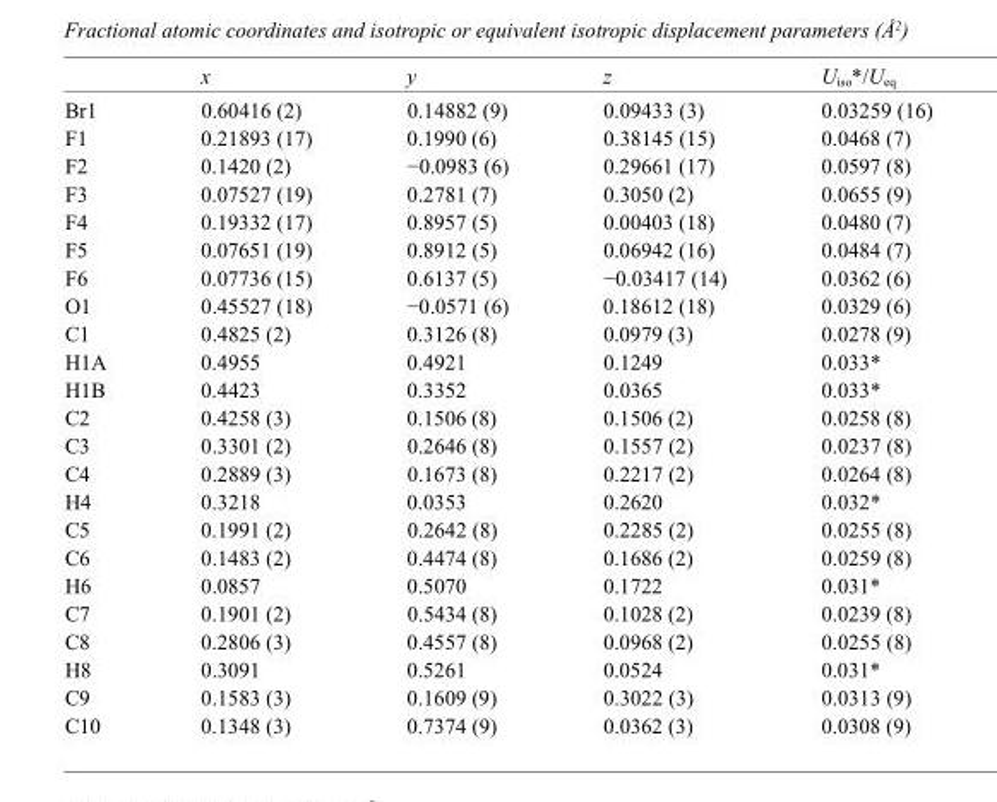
<table><thead><tr><td></td><td>x</td><td>y</td><td>z</td><td>U<sub>iso</sub>*/U<sub>eq</sub></td></tr></thead><tbody><tr><td>Br1</td><td>0.60416 (2)</td><td>0.14882 (9)</td><td>0.09433 (3)</td><td>0.03259 (16)</td></tr><tr><td>F1</td><td>0.21893 (17)</td><td>0.1990 (6)</td><td>0.38145 (15)</td><td>0.0468 (7)</td></tr><tr><td>F2</td><td>0.1420 (2)</td><td>−0.0983 (6)</td><td>0.29661 (17)</td><td>0.0597 (8)</td></tr><tr><td>F3</td><td>0.07527 (19)</td><td>0.2781 (7)</td><td>0.3050 (2)</td><td>0.0655 (9)</td></tr><tr><td>F4</td><td>0.19332 (17)</td><td>0.8957 (5)</td><td>0.00403 (18)</td><td>0.0480 (7)</td></tr><tr><td>F5</td><td>0.07651 (19)</td><td>0.8912 (5)</td><td>0.06942 (16)</td><td>0.0484 (7)</td></tr><tr><td>F6</td><td>0.07736 (15)</td><td>0.6137 (5)</td><td>−0.03417 (14)</td><td>0.0362 (6)</td></tr><tr><td>O1</td><td>0.45527 (18)</td><td>−0.0571 (6)</td><td>0.18612 (18)</td><td>0.0329 (6)</td></tr><tr><td>C1</td><td>0.4825 (2)</td><td>0.3126 (8)</td><td>0.0979 (3)</td><td>0.0278 (9)</td></tr><tr><td>H1A</td><td>0.4955</td><td>0.4921</td><td>0.1249</td><td>0.033*</td></tr><tr><td>H1B</td><td>0.4423</td><td>0.3352</td><td>0.0365</td><td>0.033*</td></tr><tr><td>C2</td><td>0.4258 (3)</td><td>0.1506 (8)</td><td>0.1506 (2)</td><td>0.0258 (8)</td></tr><tr><td>C3</td><td>0.3301 (2)</td><td>0.2646 (8)</td><td>0.1557 (2)</td><td>0.0237 (8)</td></tr><tr><td>C4</td><td>0.2889 (3)</td><td>0.1673 (8)</td><td>0.2217 (2)</td><td>0.0264 (8)</td></tr><tr><td>H4</td><td>0.3218</td><td>0.0353</td><td>0.2620</td><td>0.032*</td></tr><tr><td>C5</td><td>0.1991 (2)</td><td>0.2642 (8)</td><td>0.2285 (2)</td><td>0.0255 (8)</td></tr><tr><td>C6</td><td>0.1483 (2)</td><td>0.4474 (8)</td><td>0.1686 (2)</td><td>0.0259 (8)</td></tr><tr><td>H6</td><td>0.0857</td><td>0.5070</td><td>0.1722</td><td>0.031*</td></tr><tr><td>C7</td><td>0.1901 (2)</td><td>0.5434 (8)</td><td>0.1028 (2)</td><td>0.0239 (8)</td></tr><tr><td>C8</td><td>0.2806 (3)</td><td>0.4557 (8)</td><td>0.0968 (2)</td><td>0.0255 (8)</td></tr><tr><td>H8</td><td>0.3091</td><td>0.5261</td><td>0.0524</td><td>0.031*</td></tr><tr><td>C9</td><td>0.1583 (3)</td><td>0.1609 (9)</td><td>0.3022 (3)</td><td>0.0313 (9)</td></tr><tr><td>C10</td><td>0.1348 (3)</td><td>0.7374 (9)</td><td>0.0362 (3)</td><td>0.0308 (9)</td></tr></tbody></table>